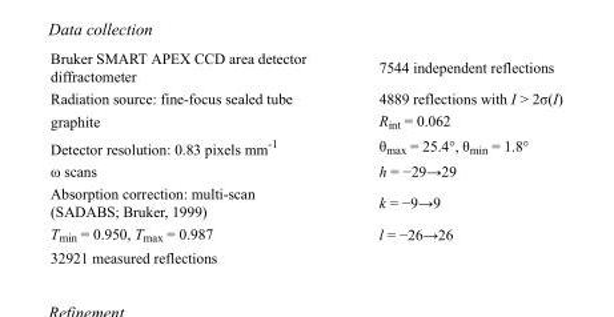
<table><tbody><tr><td>Bruker SMART APEX CCD area detector diffractometer</td><td>7544 independent reflections</td></tr><tr><td>Radiation source: fine-focus sealed tube</td><td>4889 reflections with I &gt; 2σ(I)</td></tr><tr><td>graphite</td><td>R<sub>int</sub> = 0.062</td></tr><tr><td>Detector resolution: 0.83 pixels mm<sup>-1</sup></td><td>θ<sub>max</sub> = 25.4°, θ<sub>min</sub> = 1.8°</td></tr><tr><td>ω scans</td><td>h = −29→29</td></tr><tr><td>Absorption correction: multi-scan (SADABS; Bruker, 1999)</td><td>k = −9→9</td></tr><tr><td>T<sub>min</sub> = 0.950, T<sub>max</sub> = 0.987</td><td>l = −26→26</td></tr><tr><td>32921 measured reflections</td><td></td></tr></tbody></table>